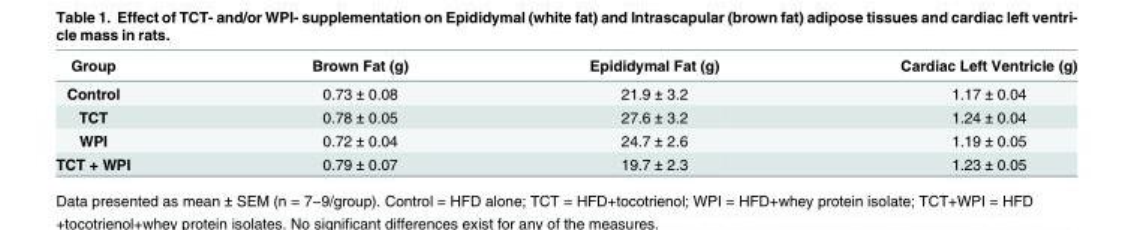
<table><thead><tr><td>Group</td><td>Brown Fat (g)</td><td>Epididymal Fat (g)</td><td>Cardiac Left Ventricle (g)</td></tr></thead><tbody><tr><td>Control</td><td>0.73 ± 0.08</td><td>21.9 ± 3.2</td><td>1.17 ± 0.04</td></tr><tr><td>TCT</td><td>0.78 ± 0.05</td><td>27.6 ± 3.2</td><td>1.24 ± 0.04</td></tr><tr><td>WPI</td><td>0.72 ± 0.04</td><td>24.7 ± 2.6</td><td>1.19 ± 0.05</td></tr><tr><td>TCT + WPI</td><td>0.79 ± 0.07</td><td>19.7 ± 2.3</td><td>1.23 ± 0.05</td></tr></tbody></table>